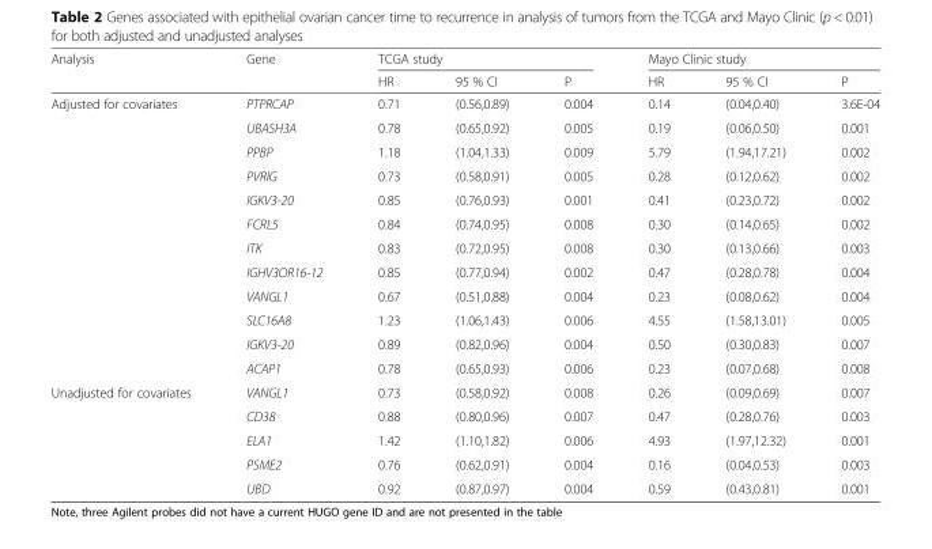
<table><thead><tr><td rowspan="2">Analysis</td><td rowspan="2">Gene</td><td colspan="3">TCGA study</td><td colspan="3">Mayo Clinic study</td></tr><tr><td>HR</td><td>95 % CI</td><td>P</td><td>HR</td><td>95 % CI</td><td>P</td></tr></thead><tbody><tr><td rowspan="12">Adjusted for covariates</td><td>PTPRCAP</td><td>0.71</td><td>(0.56,0.89)</td><td>0.004</td><td>0.14</td><td>(0.04,0.40)</td><td>3.6E-04</td></tr><tr><td>UBASH3A</td><td>0.78</td><td>(0.65,0.92)</td><td>0.005</td><td>0.19</td><td>(0.06,0.50)</td><td>0.001</td></tr><tr><td>PPBP</td><td>1.18</td><td>(1.04,1.33)</td><td>0.009</td><td>5.79</td><td>(1.94,17.21)</td><td>0.002</td></tr><tr><td>PVRIG</td><td>0.73</td><td>(0.58,0.91)</td><td>0.005</td><td>0.28</td><td>(0.12,0.62)</td><td>0.002</td></tr><tr><td>IGKV3-20</td><td>0.85</td><td>(0.76,0.93)</td><td>0.001</td><td>0.41</td><td>(0.23,0.72)</td><td>0.002</td></tr><tr><td>FCRL5</td><td>0.84</td><td>(0.74,0.95)</td><td>0.008</td><td>0.30</td><td>(0.14,0.65)</td><td>0.002</td></tr><tr><td>ITK</td><td>0.83</td><td>(0.72,0.95)</td><td>0.008</td><td>0.30</td><td>(0.13,0.66)</td><td>0.003</td></tr><tr><td>IGHV3OR16-12</td><td>0.85</td><td>(0.77,0.94)</td><td>0.002</td><td>0.47</td><td>(0.28,0.78)</td><td>0.004</td></tr><tr><td>VANGL1</td><td>0.67</td><td>(0.51,0.88)</td><td>0.004</td><td>0.23</td><td>(0.08,0.62)</td><td>0.004</td></tr><tr><td>SLC16A8</td><td>1.23</td><td>(1.06,1.43)</td><td>0.006</td><td>4.55</td><td>(1.58,13.01)</td><td>0.005</td></tr><tr><td>IGKV3-20</td><td>0.89</td><td>(0.82,0.96)</td><td>0.004</td><td>0.50</td><td>(0.30,0.83)</td><td>0.007</td></tr><tr><td>ACAP1</td><td>0.78</td><td>(0.65,0.93)</td><td>0.006</td><td>0.23</td><td>(0.07,0.68)</td><td>0.008</td></tr><tr><td rowspan="5">Unadjusted for covariates</td><td>VANGL1</td><td>0.73</td><td>(0.58,0.92)</td><td>0.008</td><td>0.26</td><td>(0.09,0.69)</td><td>0.007</td></tr><tr><td>CD38</td><td>0.88</td><td>(0.80,0.96)</td><td>0.007</td><td>0.47</td><td>(0.28,0.76)</td><td>0.003</td></tr><tr><td>ELA1</td><td>1.42</td><td>(1.10,1.82)</td><td>0.006</td><td>4.93</td><td>(1.97,12.32)</td><td>0.001</td></tr><tr><td>PSME2</td><td>0.76</td><td>(0.62,0.91)</td><td>0.004</td><td>0.16</td><td>(0.04,0.53)</td><td>0.003</td></tr><tr><td>UBD</td><td>0.92</td><td>(0.87,0.97)</td><td>0.004</td><td>0.59</td><td>(0.43,0.81)</td><td>0.001</td></tr></tbody></table>